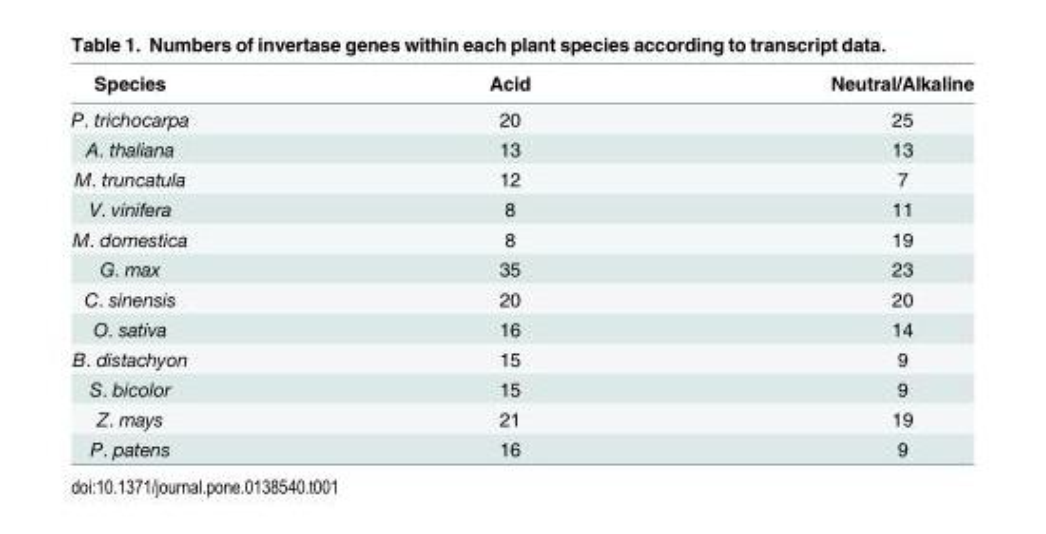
<table><thead><tr><td>Species</td><td>Acid</td><td>Neutral/Alkaline</td></tr></thead><tbody><tr><td>P. trichocarpa</td><td>20</td><td>25</td></tr><tr><td>A. thaliana</td><td>13</td><td>13</td></tr><tr><td>M. truncatula</td><td>12</td><td>7</td></tr><tr><td>V. vinifera</td><td>8</td><td>11</td></tr><tr><td>M. domestica</td><td>8</td><td>19</td></tr><tr><td>G. max</td><td>35</td><td>23</td></tr><tr><td>C. sinensis</td><td>20</td><td>20</td></tr><tr><td>O. sativa</td><td>16</td><td>14</td></tr><tr><td>B. distachyon</td><td>15</td><td>9</td></tr><tr><td>S. bicolor</td><td>15</td><td>9</td></tr><tr><td>Z. mays</td><td>21</td><td>19</td></tr><tr><td>P. patens</td><td>16</td><td>9</td></tr></tbody></table>